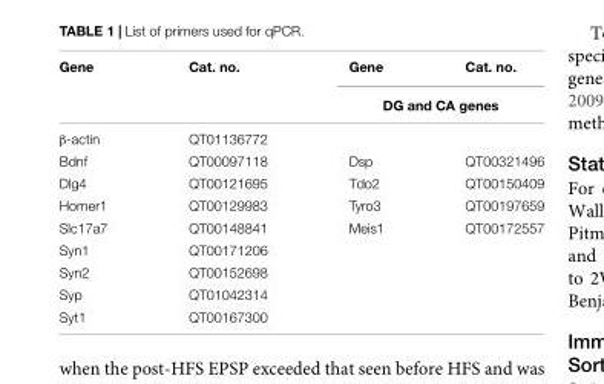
<table><thead><tr><td rowspan="2">Gene</td><td rowspan="2">Cat. no.</td><td>Gene</td><td>Cat. no.</td></tr><tr><td colspan="2">DG and CA genes</td></tr></thead><tbody><tr><td>β-actin</td><td>QT01136772</td><td></td><td></td></tr><tr><td>Bdnf</td><td>QT00097118</td><td>Dsp</td><td>QT00321496</td></tr><tr><td>Dlg4</td><td>QT00121695</td><td>Tdo2</td><td>QT00150409</td></tr><tr><td>Homer1</td><td>QT00129983</td><td>Tyro3</td><td>QT00197659</td></tr><tr><td>Slc17a7</td><td>QT00148841</td><td>Meis1</td><td>QT00172557</td></tr><tr><td>Syn1</td><td>QT00171206</td><td colspan="2"></td></tr><tr><td>Syn2</td><td>QT00152698</td><td colspan="2"></td></tr><tr><td>Syp</td><td>QT01042314</td><td colspan="2"></td></tr><tr><td>Syt1</td><td>QT00167300</td><td colspan="2"></td></tr></tbody></table>